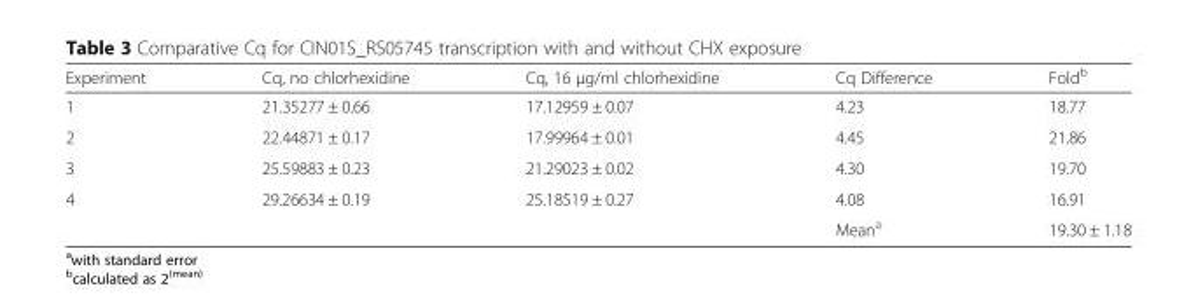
<table><thead><tr><td>Experiment</td><td>Cq, no chlorhexidine</td><td>Cq, 16 μg/ml chlorhexidine</td><td>Cq Difference</td><td>Fold<sup>b</sup></td></tr></thead><tbody><tr><td>1</td><td>21.35277 ± 0.66</td><td>17.12959 ± 0.07</td><td>4.23</td><td>18.77</td></tr><tr><td>2</td><td>22.44871 ± 0.17</td><td>17.99964 ± 0.01</td><td>4.45</td><td>21.86</td></tr><tr><td>3</td><td>25.59883 ± 0.23</td><td>21.29023 ± 0.02</td><td>4.30</td><td>19.70</td></tr><tr><td>4</td><td>29.26634 ± 0.19</td><td>25.18519 ± 0.27</td><td>4.08</td><td>16.91</td></tr><tr><td colspan="3"></td><td>Mean<sup>a</sup></td><td>19.30 ± 1.18</td></tr></tbody></table>